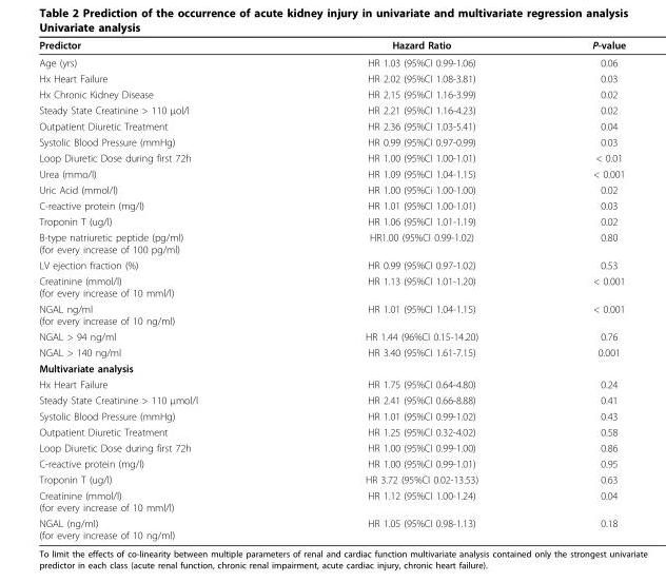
<table><thead><tr><td>Predictor</td><td>Hazard Ratio</td><td>P-value</td></tr></thead><tbody><tr><td>Age (yrs)</td><td>HR 1.03 (95%CI 0.99-1.06)</td><td>0.06</td></tr><tr><td>Hx Heart Failure</td><td>HR 2.02 (95%CI 1.08-3.81)</td><td>0.03</td></tr><tr><td>Hx Chronic Kidney Disease</td><td>HR 2.15 (95%CI 1.16-3.99)</td><td>0.02</td></tr><tr><td>Steady State Creatinine &gt; 110 μol/l</td><td>HR 2.21 (95%CI 1.16-4.23)</td><td>0.02</td></tr><tr><td>Outpatient Diuretic Treatment</td><td>HR 2.36 (95%CI 1.03-5.41)</td><td>0.04</td></tr><tr><td>Systolic Blood Pressure (mmHg)</td><td>HR 0.99 (95%CI 0.97-0.99)</td><td>0.03</td></tr><tr><td>Loop Diuretic Dose during first 72h</td><td>HR 1.00 (95%CI 1.00-1.01)</td><td>&lt; 0.01</td></tr><tr><td>Urea (mmo/l)</td><td>HR 1.09 (95%CI 1.04-1.15)</td><td>&lt; 0.001</td></tr><tr><td>Uric Acid (mmol/l)</td><td>HR 1.00 (95%Ci 1.00-1.00)</td><td>0.02</td></tr><tr><td>C-reactive protein (mg/l)</td><td>HR 1.01 (95%CI 1.00-1.01)</td><td>0.03</td></tr><tr><td>Troponin T (ug/l)</td><td>HR 1.06 (95%CI 1.01-1.19)</td><td>0.02</td></tr><tr><td>B-type natriuretic peptide (pg/ml) (for every increase of 100 pg/ml)</td><td>HR1.00 (95%CI 0.99-1.02)</td><td>0.80</td></tr><tr><td>LV ejection fraction (%)</td><td>HR 0.99 (95%CI 0.97-1.02)</td><td>0.53</td></tr><tr><td>Creatinine (mmol/l) (for every increase of 10 mml/l)</td><td>HR 1.13 (95%CI 1.01-1.20)</td><td>&lt; 0.001</td></tr><tr><td>NGAL ng/ml (for every increase of 10 ng/ml)</td><td>HR 1.01 (95%CI 1.04-1.15)</td><td>&lt; 0.001</td></tr><tr><td>NGAL &gt; 94 ng/ml</td><td>HR 1.44 (96%CI 0.15-14.20)</td><td>0.76</td></tr><tr><td>NGAL &gt; 140 ng/ml</td><td>HR 3.40 (95%CI 1.61-7.15)</td><td>0.001</td></tr><tr><td colspan="3">Multivariate analysis</td></tr><tr><td>Hx Heart Failure</td><td>HR 1.75 (95%CI 0.64-4.80)</td><td>0.24</td></tr><tr><td>Steady State Creatinine &gt; 110 μmol/l</td><td>HR 2.41 (95%CI 0.66-8.88)</td><td>0.41</td></tr><tr><td>Systolic Blood Pressure (mmHg)</td><td>HR 1.01 (95%CI 0.99-1.02)</td><td>0.43</td></tr><tr><td>Outpatient Diuretic Treatment</td><td>HR 1.25 (95%CI 0.32-4.02)</td><td>0.58</td></tr><tr><td>Loop Diuretic Dose during first 72h</td><td>HR 1.00 (95%CI 0.99-1.00)</td><td>0.86</td></tr><tr><td>C-reactive protein (mg/l)</td><td>HR 1.00 (95%CI 0.99-1.01)</td><td>0.95</td></tr><tr><td>Troponin T (ug/l)</td><td>HR 3.72 (95%CI 0.02-13.53)</td><td>0.63</td></tr><tr><td>Creatinine (mmol/l) (for every increase of 10 mml/l)</td><td>HR 1.12 (95%CI 1.00-1.24)</td><td>0.04</td></tr><tr><td>NGAL (ng/ml) (for every increase of 10 ng/ml)</td><td>HR 1.05 (95%CI 0.98-1.13)</td><td>0.18</td></tr></tbody></table>